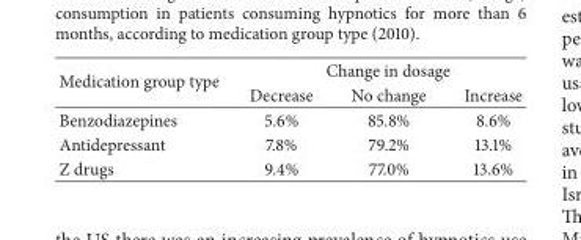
<table><thead><tr><td rowspan="2">Medication group type</td><td colspan="3">Change in dosage</td></tr><tr><td>Decrease</td><td>No change</td><td>Increase</td></tr></thead><tbody><tr><td>Benzodiazepines</td><td>5.6%</td><td>85.8%</td><td>8.6%</td></tr><tr><td>Antidepressant</td><td>7.8%</td><td>79.2%</td><td>13.1%</td></tr><tr><td>Z drugs</td><td>9.4%</td><td>77.0%</td><td>13.6%</td></tr></tbody></table>